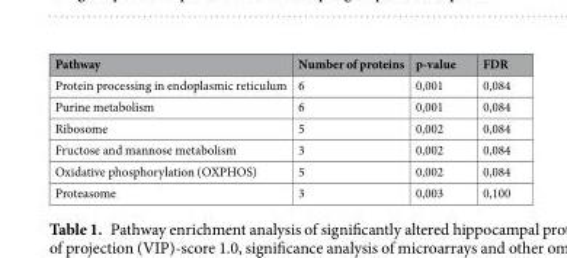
<table><thead><tr><td>Pathway</td><td>Number of proteins</td><td>p-value</td><td>FDR</td></tr></thead><tbody><tr><td>Protein processing in endoplasmic reticulum</td><td>6</td><td>0,001</td><td>0,084</td></tr><tr><td>Purine metabolism</td><td>6</td><td>0,001</td><td>0,084</td></tr><tr><td>Ribosome</td><td>5</td><td>0,002</td><td>0,084</td></tr><tr><td>Fructose and mannose metabolism</td><td>3</td><td>0,002</td><td>0,084</td></tr><tr><td>Oxidative phosphorylation (OXPHOS)</td><td>5</td><td>0,002</td><td>0,084</td></tr><tr><td>Proteasome</td><td>3</td><td>0,003</td><td>0,100</td></tr></tbody></table>